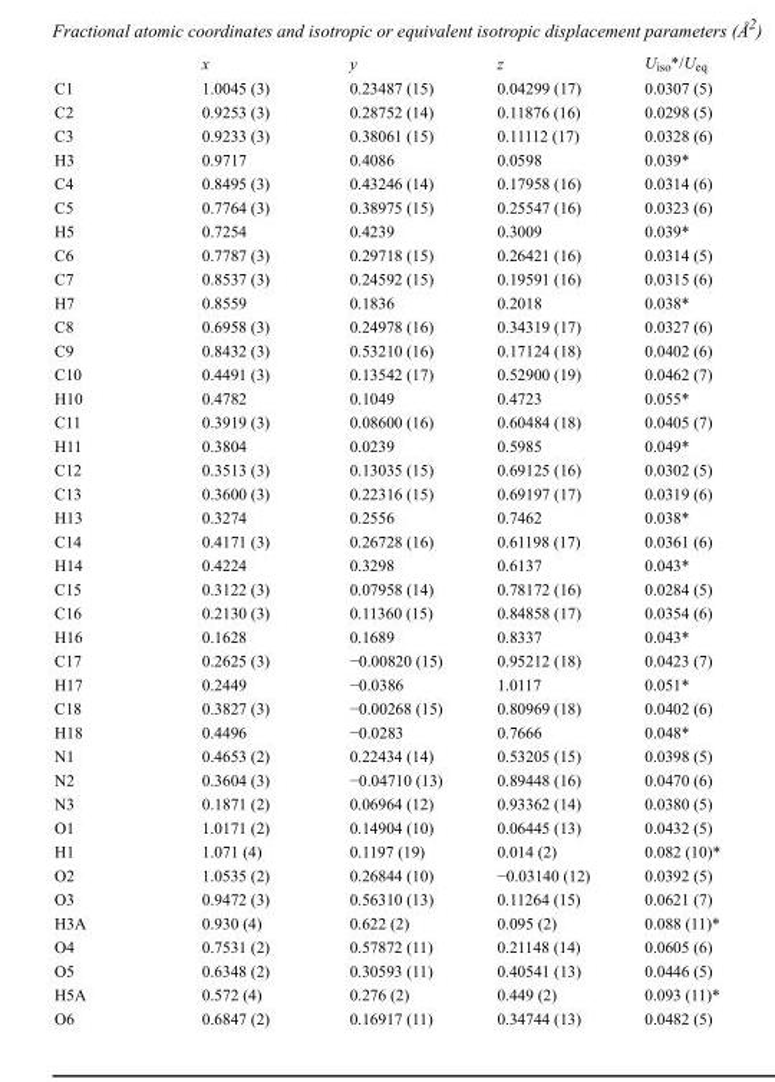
<table><thead><tr><td></td><td>x</td><td>y</td><td>z</td><td>U<sub>iso</sub>*/U<sub>eq</sub></td></tr></thead><tbody><tr><td>C1</td><td>1.0045 (3)</td><td>0.23487 (15)</td><td>0.04299 (17)</td><td>0.0307 (5)</td></tr><tr><td>C2</td><td>0.9253 (3)</td><td>0.28752 (14)</td><td>0.11876 (16)</td><td>0.0298 (5)</td></tr><tr><td>C3</td><td>0.9233 (3)</td><td>0.38061 (15)</td><td>0.11112 (17)</td><td>0.0328 (6)</td></tr><tr><td>H3</td><td>0.9717</td><td>0.4086</td><td>0.0598</td><td>0.039*</td></tr><tr><td>C4</td><td>0.8495 (3)</td><td>0.43246 (14)</td><td>0.17958 (16)</td><td>0.0314 (6)</td></tr><tr><td>C5</td><td>0.7764 (3)</td><td>0.38975 (15)</td><td>0.25547 (16)</td><td>0.0323 (6)</td></tr><tr><td>H5</td><td>0.7254</td><td>0.4239</td><td>0.3009</td><td>0.039*</td></tr><tr><td>C6</td><td>0.7787 (3)</td><td>0.29718 (15)</td><td>0.26421 (16)</td><td>0.0314 (5)</td></tr><tr><td>C7</td><td>0.8537 (3)</td><td>0.24592 (15)</td><td>0.19591 (16)</td><td>0.0315 (6)</td></tr><tr><td>H7</td><td>0.8559</td><td>0.1836</td><td>0.2018</td><td>0.038*</td></tr><tr><td>C8</td><td>0.6958 (3)</td><td>0.24978 (16)</td><td>0.34319 (17)</td><td>0.0327 (6)</td></tr><tr><td>C9</td><td>0.8432 (3)</td><td>0.53210 (16)</td><td>0.17124 (18)</td><td>0.0402 (6)</td></tr><tr><td>C10</td><td>0.4491 (3)</td><td>0.13542 (17)</td><td>0.52900 (19)</td><td>0.0462 (7)</td></tr><tr><td>H10</td><td>0.4782</td><td>0.1049</td><td>0.4723</td><td>0.055*</td></tr><tr><td>C11</td><td>0.3919 (3)</td><td>0.08600 (16)</td><td>0.60484 (18)</td><td>0.0405 (7)</td></tr><tr><td>H11</td><td>0.3804</td><td>0.0239</td><td>0.5985</td><td>0.049*</td></tr><tr><td>C12</td><td>0.3513 (3)</td><td>0.13035 (15)</td><td>0.69125 (16)</td><td>0.0302 (5)</td></tr><tr><td>C13</td><td>0.3600 (3)</td><td>0.22316 (15)</td><td>0.69197 (17)</td><td>0.0319 (6)</td></tr><tr><td>H13</td><td>0.3274</td><td>0.2556</td><td>0.7462</td><td>0.038*</td></tr><tr><td>C14</td><td>0.4171 (3)</td><td>0.26728 (16)</td><td>0.61198 (17)</td><td>0.0361 (6)</td></tr><tr><td>H14</td><td>0.4224</td><td>0.3298</td><td>0.6137</td><td>0.043*</td></tr><tr><td>C15</td><td>0.3122 (3)</td><td>0.07958 (14)</td><td>0.78172 (16)</td><td>0.0284 (5)</td></tr><tr><td>C16</td><td>0.2130 (3)</td><td>0.11360 (15)</td><td>0.84858 (17)</td><td>0.0354 (6)</td></tr><tr><td>H16</td><td>0.1628</td><td>0.1689</td><td>0.8337</td><td>0.043*</td></tr><tr><td>C17</td><td>0.2625 (3)</td><td>−0.00820 (15)</td><td>0.95212 (18)</td><td>0.0423 (7)</td></tr><tr><td>H17</td><td>0.2449</td><td>−0.0386</td><td>1.0117</td><td>0.051*</td></tr><tr><td>C18</td><td>0.3827 (3)</td><td>−0.00268 (15)</td><td>0.80969 (18)</td><td>0.0402 (6)</td></tr><tr><td>H18</td><td>0.4496</td><td>−0.0283</td><td>0.7666</td><td>0.048*</td></tr><tr><td>N1</td><td>0.4653 (2)</td><td>0.22434 (14)</td><td>0.53205 (15)</td><td>0.0398 (5)</td></tr><tr><td>N2</td><td>0.3604 (3)</td><td>−0.04710 (13)</td><td>0.89448 (16)</td><td>0.0470 (6)</td></tr><tr><td>N3</td><td>0.1871 (2)</td><td>0.06964 (12)</td><td>0.93362 (14)</td><td>0.0380 (5)</td></tr><tr><td>O1</td><td>1.0171 (2)</td><td>0.14904 (10)</td><td>0.06445 (13)</td><td>0.0432 (5)</td></tr><tr><td>H1</td><td>1.071 (4)</td><td>0.1197 (19)</td><td>0.014 (2)</td><td>0.082 (10)*</td></tr><tr><td>O2</td><td>1.0535 (2)</td><td>0.26844 (10)</td><td>−0.03140 (12)</td><td>0.0392 (5)</td></tr><tr><td>O3</td><td>0.9472 (3)</td><td>0.56310 (13)</td><td>0.11264 (15)</td><td>0.0621 (7)</td></tr><tr><td>H3A</td><td>0.930 (4)</td><td>0.622 (2)</td><td>0.095 (2)</td><td>0.088 (11)*</td></tr><tr><td>O4</td><td>0.7531 (2)</td><td>0.57872 (11)</td><td>0.21148 (14)</td><td>0.0605 (6)</td></tr><tr><td>O5</td><td>0.6348 (2)</td><td>0.30593 (11)</td><td>0.40541 (13)</td><td>0.0446 (5)</td></tr><tr><td>H5A</td><td>0.572 (4)</td><td>0.276 (2)</td><td>0.449 (2)</td><td>0.093 (11)*</td></tr><tr><td>O6</td><td>0.6847 (2)</td><td>0.16917 (11)</td><td>0.34744 (13)</td><td>0.0482 (5)</td></tr></tbody></table>